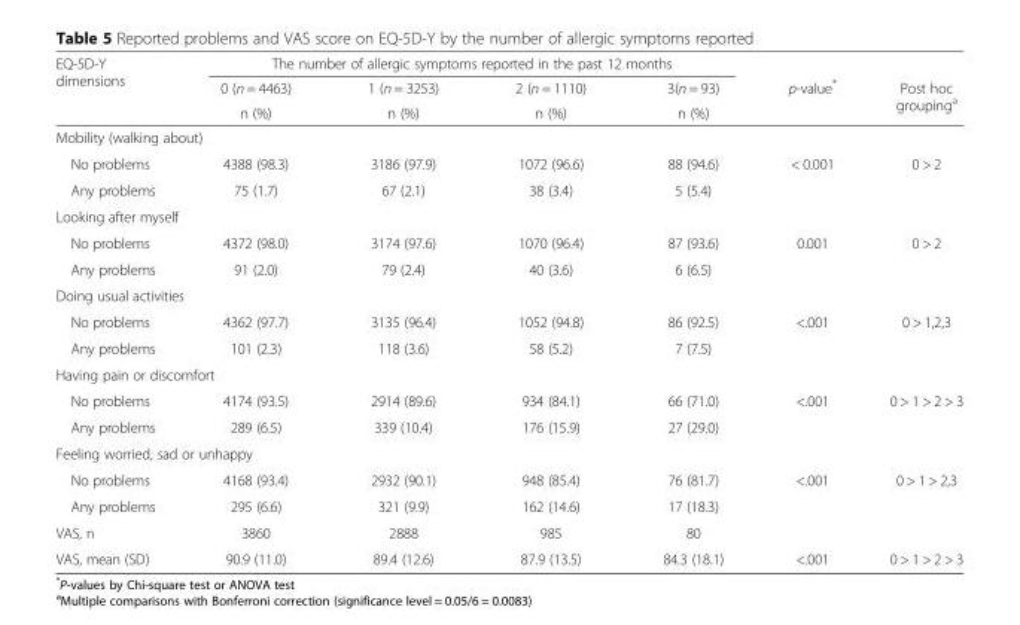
<table><thead><tr><td rowspan="3">EQ-5D-Y dimensions</td><td colspan="4">The number of allergic symptoms reported in the past 12 months</td><td rowspan="3">p-value*</td><td rowspan="3">Post hoc grouping<sup>a</sup></td></tr><tr><td rowspan="2">0 (n = 4463) n (%)</td><td rowspan="2">1 (n = 3253) n (%)</td><td rowspan="2">2 (n = 1110) n (%)</td><td rowspan="2">3(n = 93) n (%)</td></tr><tr></tr></thead><tbody><tr><td colspan="7">Mobility (walking about)</td></tr><tr><td>No problems</td><td>4388 (98.3)</td><td>3186 (97.9)</td><td>1072 (96.6)</td><td>88 (94.6)</td><td>&lt; 0.001</td><td>0 &gt; 2</td></tr><tr><td>Any problems</td><td>75 (1.7)</td><td>67 (2.1)</td><td>38 (3.4)</td><td>5 (5.4)</td><td></td><td></td></tr><tr><td colspan="7">Looking after myself</td></tr><tr><td>No problems</td><td>4372 (98.0)</td><td>3174 (97.6)</td><td>1070 (96.4)</td><td>87 (93.6)</td><td>0.001</td><td>0 &gt; 2</td></tr><tr><td>Any problems</td><td>91 (2.0)</td><td>79 (2.4)</td><td>40 (3.6)</td><td>6 (6.5)</td><td></td><td></td></tr><tr><td colspan="7">Doing usual activities</td></tr><tr><td>No problems</td><td>4362 (97.7)</td><td>3135 (96.4)</td><td>1052 (94.8)</td><td>86 (92.5)</td><td>&lt;.001</td><td>0 &gt; 1,2,3</td></tr><tr><td>Any problems</td><td>101 (2.3)</td><td>118 (3.6)</td><td>58 (5.2)</td><td>7 (7.5)</td><td></td><td></td></tr><tr><td colspan="7">Having pain or discomfort</td></tr><tr><td>No problems</td><td>4174 (93.5)</td><td>2914 (89.6)</td><td>934 (84.1)</td><td>66 (71.0)</td><td>&lt;.001</td><td>0 &gt; 1 &gt; 2 &gt; 3</td></tr><tr><td>Any problems</td><td>289 (6.5)</td><td>339 (10.4)</td><td>176 (15.9)</td><td>27 (29.0)</td><td></td><td></td></tr><tr><td colspan="7">Feeling worried, sad or unhappy</td></tr><tr><td>No problems</td><td>4168 (93.4)</td><td>2932 (90.1)</td><td>948 (85.4)</td><td>76 (81.7)</td><td>&lt;.001</td><td>0 &gt; 1 &gt; 2,3</td></tr><tr><td>Any problems</td><td>295 (6.6)</td><td>321 (9.9)</td><td>162 (14.6)</td><td>17 (18.3)</td><td></td><td></td></tr><tr><td>VAS, n</td><td>3860</td><td>2888</td><td>985</td><td>80</td><td></td><td></td></tr><tr><td>VAS, mean (SD)</td><td>90.9 (11.0)</td><td>89.4 (12.6)</td><td>87.9 (13.5)</td><td>84.3 (18.1)</td><td>&lt;.001</td><td>0 &gt; 1 &gt; 2 &gt; 3</td></tr></tbody></table>